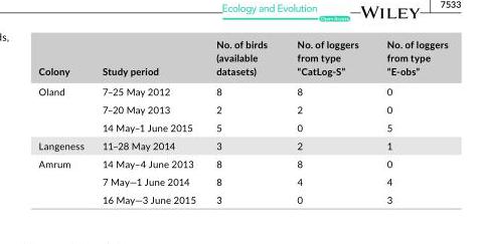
<table><thead><tr><td>Colony</td><td>Study period</td><td>No. of birds (available datasets)</td><td>No. of loggers from type “CatLog- S”</td><td>No. of loggers from type “E- obs”</td></tr></thead><tbody><tr><td rowspan="3">Oland</td><td>7–25 May 2012</td><td>8</td><td>8</td><td>0</td></tr><tr><td>7–20 May 2013</td><td>2</td><td>2</td><td>0</td></tr><tr><td>14 May–1 June 2015</td><td>5</td><td>0</td><td>5</td></tr><tr><td>Langeness</td><td>11–28 May 2014</td><td>3</td><td>2</td><td>1</td></tr><tr><td rowspan="3">Amrum</td><td>14 May–4 June 2013</td><td>8</td><td>8</td><td>0</td></tr><tr><td>7 May—1 June 2014</td><td>8</td><td>4</td><td>4</td></tr><tr><td>16 May—3 June 2015</td><td>3</td><td>0</td><td>3</td></tr></tbody></table>